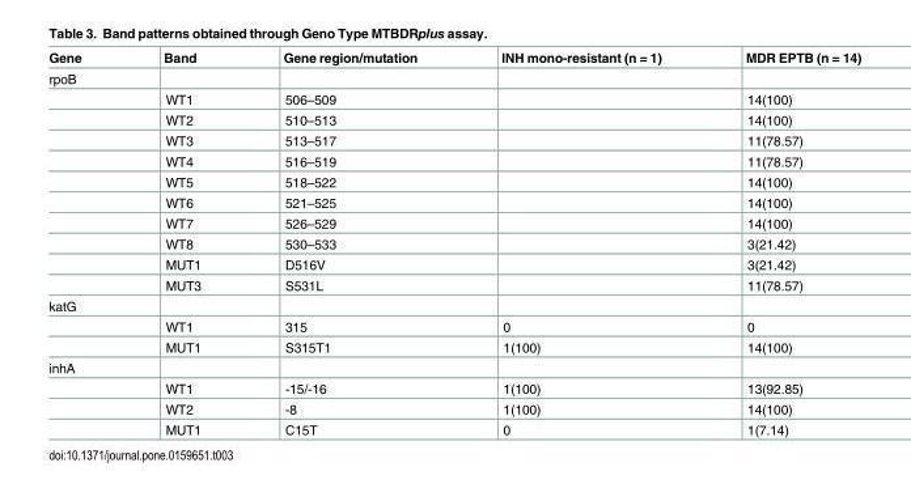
<table><thead><tr><td>Gene</td><td>Band</td><td>Gene region/mutation</td><td>INH mono-resistant (n = 1)</td><td>MDR EPTB (n = 14)</td></tr></thead><tbody><tr><td colspan="5">rpoB</td></tr><tr><td></td><td>WT1</td><td>506–509</td><td></td><td>14(100)</td></tr><tr><td></td><td>WT2</td><td>510–513</td><td></td><td>14(100)</td></tr><tr><td></td><td>WT3</td><td>513–517</td><td></td><td>11(78.57)</td></tr><tr><td></td><td>WT4</td><td>516–519</td><td></td><td>11(78.57)</td></tr><tr><td></td><td>WT5</td><td>518–522</td><td></td><td>14(100)</td></tr><tr><td></td><td>WT6</td><td>521–525</td><td></td><td>14(100)</td></tr><tr><td></td><td>WT7</td><td>526–529</td><td></td><td>14(100)</td></tr><tr><td></td><td>WT8</td><td>530–533</td><td></td><td>3(21.42)</td></tr><tr><td></td><td>MUT1</td><td>D516V</td><td></td><td>3(21.42)</td></tr><tr><td></td><td>MUT3</td><td>S531L</td><td></td><td>11(78.57)</td></tr><tr><td colspan="5">katG</td></tr><tr><td></td><td>WT1</td><td>315</td><td>0</td><td>0</td></tr><tr><td></td><td>MUT1</td><td>S315T1</td><td>1(100)</td><td>14(100)</td></tr><tr><td colspan="5">inhA</td></tr><tr><td></td><td>WT1</td><td>-15/-16</td><td>1(100)</td><td>13(92.85)</td></tr><tr><td></td><td>WT2</td><td>-8</td><td>1(100)</td><td>14(100)</td></tr><tr><td></td><td>MUT1</td><td>C15T</td><td>0</td><td>1(7.14)</td></tr></tbody></table>